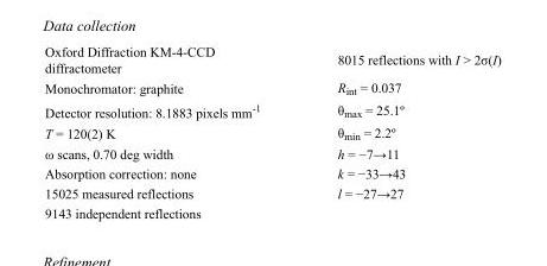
<table><tbody><tr><td>Oxford Diffraction KM-4-CCD diffractometer</td><td>8015 reflections with I &gt; 2σ(I)</td></tr><tr><td>Monochromator: graphite</td><td>R<sub>int</sub> = 0.037</td></tr><tr><td>Detector resolution: 8.1883 pixels mm<sup>-1</sup></td><td>θ<sub>max</sub> = 25.1º</td></tr><tr><td>T = 120(2) K</td><td>θ<sub>min</sub> = 2.2º</td></tr><tr><td>ω scans, 0.70 deg width</td><td>h = −7→11</td></tr><tr><td>Absorption correction: none</td><td>k = −33→43</td></tr><tr><td>15025 measured reflections</td><td>l = −27→27</td></tr><tr><td>9143 independent reflections</td><td></td></tr></tbody></table>